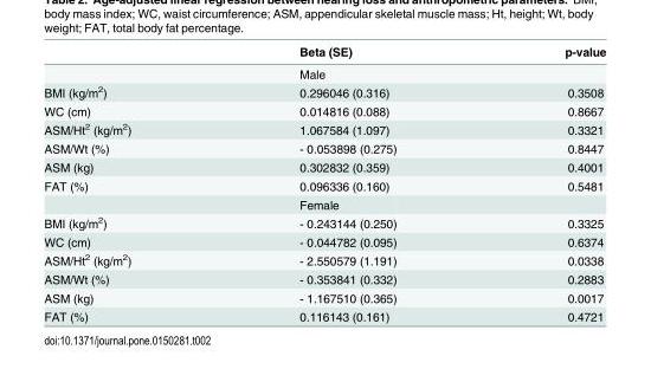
<table><thead><tr><td></td><td>Beta (SE)</td><td>p-value</td></tr></thead><tbody><tr><td></td><td>Male</td><td></td></tr><tr><td>BMI (kg/m<sup>2</sup>)</td><td>0.296046 (0.316)</td><td>0.3508</td></tr><tr><td>WC (cm)</td><td>0.014816 (0.088)</td><td>0.8667</td></tr><tr><td>ASM/Ht<sup>2</sup> (kg/m<sup>2</sup>)</td><td>1.067584 (1.097)</td><td>0.3321</td></tr><tr><td>ASM/Wt (%)</td><td>- 0.053898 (0.275)</td><td>0.8447</td></tr><tr><td>ASM (kg)</td><td>0.302832 (0.359)</td><td>0.4001</td></tr><tr><td rowspan="2">FAT (%)</td><td>0.096336 (0.160)</td><td>0.5481</td></tr><tr><td>Female</td><td></td></tr><tr><td>BMI (kg/m<sup>2</sup>)</td><td>- 0.243144 (0.250)</td><td>0.3325</td></tr><tr><td>WC (cm)</td><td>- 0.044782 (0.095)</td><td>0.6374</td></tr><tr><td>ASM/Ht<sup>2</sup> (kg/m<sup>2</sup>)</td><td>- 2.550579 (1.191)</td><td>0.0338</td></tr><tr><td>ASM/Wt (%)</td><td>- 0.353841 (0.332)</td><td>0.2883</td></tr><tr><td>ASM (kg)</td><td>- 1.167510 (0.365)</td><td>0.0017</td></tr><tr><td>FAT (%)</td><td>0.116143 (0.161)</td><td>0.4721</td></tr></tbody></table>